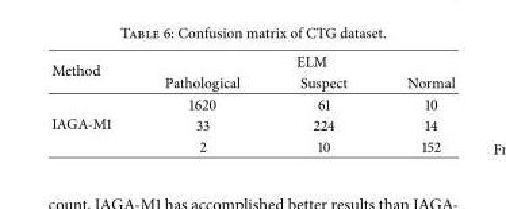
<table><thead><tr><td rowspan="2">Method</td><td colspan="3">ELM</td></tr><tr><td>Pathological</td><td>Suspect</td><td>Normal</td></tr></thead><tbody><tr><td rowspan="3">IAGA-M1</td><td>1620</td><td>61</td><td>10</td></tr><tr><td>33</td><td>224</td><td>14</td></tr><tr><td>2</td><td>10</td><td>152</td></tr></tbody></table>